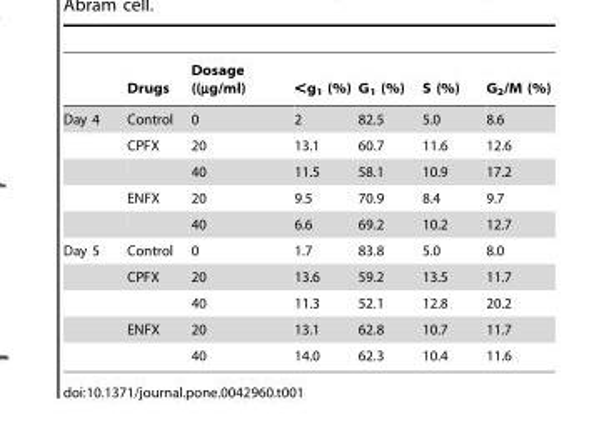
<table><thead><tr><td></td><td>Drugs</td><td>Dosage ((µg/ml)</td><td>&lt;g<sub>1</sub> (%)</td><td>G<sub>1</sub> (%)</td><td>S (%)</td><td>G<sub>2</sub>/M (%)</td></tr></thead><tbody><tr><td rowspan="5">Day 4</td><td>Control</td><td>0</td><td>2</td><td>82.5</td><td>5.0</td><td>8.6</td></tr><tr><td>CPFX</td><td>20</td><td>13.1</td><td>60.7</td><td>11.6</td><td>12.6</td></tr><tr><td></td><td>40</td><td>11.5</td><td>58.1</td><td>10.9</td><td>17.2</td></tr><tr><td>ENFX</td><td>20</td><td>9.5</td><td>70.9</td><td>8.4</td><td>9.7</td></tr><tr><td></td><td>40</td><td>6.6</td><td>69.2</td><td>10.2</td><td>12.7</td></tr><tr><td rowspan="5">Day 5</td><td>Control</td><td>0</td><td>1.7</td><td>83.8</td><td>5.0</td><td>8.0</td></tr><tr><td>CPFX</td><td>20</td><td>13.6</td><td>59.2</td><td>13.5</td><td>11.7</td></tr><tr><td></td><td>40</td><td>11.3</td><td>52.1</td><td>12.8</td><td>20.2</td></tr><tr><td>ENFX</td><td>20</td><td>13.1</td><td>62.8</td><td>10.7</td><td>11.7</td></tr><tr><td></td><td>40</td><td>14.0</td><td>62.3</td><td>10.4</td><td>11.6</td></tr></tbody></table>